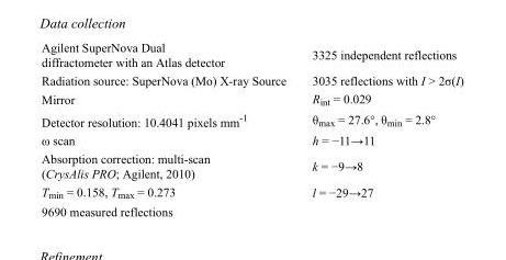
<table><tbody><tr><td>Agilent SuperNova Dual diffractometer with an Atlas detector</td><td>3325 independent reflections</td></tr><tr><td>Radiation source: SuperNova (Mo) X-ray Source</td><td>3035 reflections with I &gt; 2σ(I)</td></tr><tr><td>Mirror</td><td>R<sub>int</sub> = 0.029</td></tr><tr><td>Detector resolution: 10.4041 pixels mm<sup>-1</sup></td><td>θ<sub>max</sub> = 27.6°, θ<sub>min</sub> = 2.8°</td></tr><tr><td>ω scan</td><td>h = −11→11</td></tr><tr><td>Absorption correction: multi-scan (CrysAlis PRO; Agilent, 2010)</td><td>k = −9→8</td></tr><tr><td>T<sub>min</sub> = 0.158, T<sub>max</sub> = 0.273</td><td>l = −29→27</td></tr><tr><td>9690 measured reflections</td><td></td></tr></tbody></table>